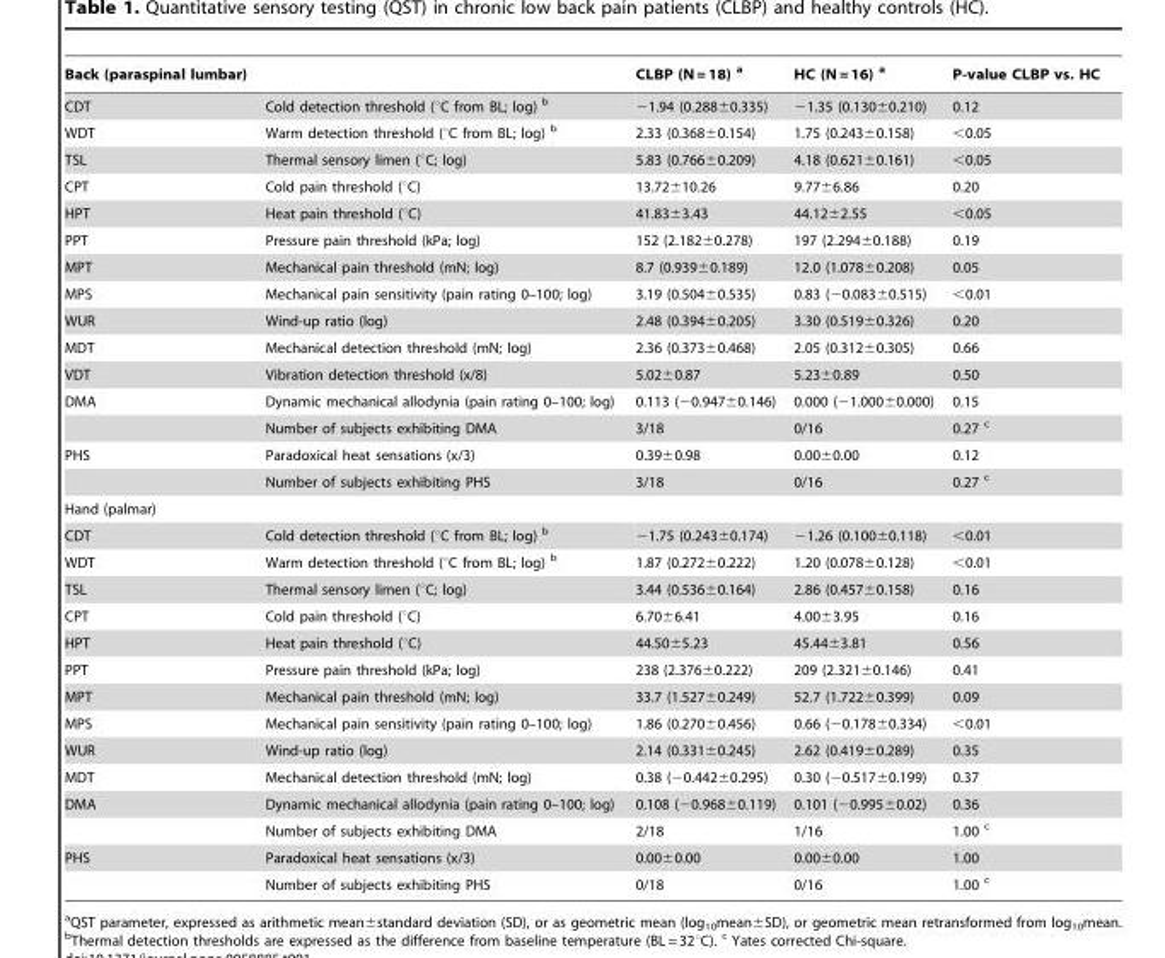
<table><thead><tr><td>Back (paraspinal lumbar)</td><td></td><td>CLBP (N = 18) a</td><td>HC (N = 16) a</td><td>P-value CLBP vs. HC</td></tr></thead><tbody><tr><td>CDT</td><td>Cold detection threshold (°C from BL; log) b</td><td>−1.94 (0.288±0.335)</td><td>−1.35 (0.130±0.210)</td><td>0.12</td></tr><tr><td>WDT</td><td>Warm detection threshold (°C from BL; log) b</td><td>2.33 (0.368±0.154)</td><td>1.75 (0.243±0.158)</td><td>&lt;0.05</td></tr><tr><td>TSL</td><td>Thermal sensory limen (°C; log)</td><td>5.83 (0.766±0.209)</td><td>4.18 (0.621±0.161)</td><td>&lt;0.05</td></tr><tr><td>CPT</td><td>Cold pain threshold (°C)</td><td>13.72±10.26</td><td>9.77±6.86</td><td>0.20</td></tr><tr><td>HPT</td><td>Heat pain threshold (°C)</td><td>41.83±3.43</td><td>44.12±2.55</td><td>&lt;0.05</td></tr><tr><td>PPT</td><td>Pressure pain threshold (kPa; log)</td><td>152 (2.182±0.278)</td><td>197 (2.294±0.188)</td><td>0.19</td></tr><tr><td>MPT</td><td>Mechanical pain threshold (mN; log)</td><td>8.7 (0.939±0.189)</td><td>12.0 (1.078±0.208)</td><td>0.05</td></tr><tr><td>MPS</td><td>Mechanical pain sensitivity (pain rating 0–100; log)</td><td>3.19 (0.504±0.535)</td><td>0.83 (−0.083±0.515)</td><td>&lt;0.01</td></tr><tr><td>WUR</td><td>Wind-up ratio (log)</td><td>2.48 (0.394±0.205)</td><td>3.30 (0.519±0.326)</td><td>0.20</td></tr><tr><td>MDT</td><td>Mechanical detection threshold (mN; log)</td><td>2.36 (0.373±0.468)</td><td>2.05 (0.312±0.305)</td><td>0.66</td></tr><tr><td>VDT</td><td>Vibration detection threshold (x/8)</td><td>5.02±0.87</td><td>5.23±0.89</td><td>0.50</td></tr><tr><td rowspan="2">DMA</td><td>Dynamic mechanical allodynia (pain rating 0–100; log)</td><td>0.113 (−0.947±0.146)</td><td>0.000 (−1.000±0.000)</td><td>0.15</td></tr><tr><td>Number of subjects exhibiting DMA</td><td>3/18</td><td>0/16</td><td>0.27 <sup>c</sup></td></tr><tr><td rowspan="2">PHS</td><td>Paradoxical heat sensations (x/3)</td><td>0.39±0.98</td><td>0.00±0.00</td><td>0.12</td></tr><tr><td>Number of subjects exhibiting PHS</td><td>3/18</td><td>0/16</td><td>0.27 <sup>c</sup></td></tr><tr><td colspan="5">Hand (palmar)</td></tr><tr><td>CDT</td><td>Cold detection threshold (°C from BL; log) b</td><td>−1.75 (0.243±0.174)</td><td>−1.26 (0.100±0.118)</td><td>&lt;0.01</td></tr><tr><td>WDT</td><td>Warm detection threshold (°C from BL; log) b</td><td>1.87 (0.272±0.222)</td><td>1.20 (0.078±0.128)</td><td>&lt;0.01</td></tr><tr><td>TSL</td><td>Thermal sensory limen (°C; log)</td><td>3.44 (0.536±0.164)</td><td>2.86 (0.457±0.158)</td><td>0.16</td></tr><tr><td>CPT</td><td>Cold pain threshold (°C)</td><td>6.70±6.41</td><td>4.00±3.95</td><td>0.16</td></tr><tr><td>HPT</td><td>Heat pain threshold (°C)</td><td>44.50±5.23</td><td>45.44±3.81</td><td>0.56</td></tr><tr><td>PPT</td><td>Pressure pain threshold (kPa; log)</td><td>238 (2.376±0.222)</td><td>209 (2.321±0.146)</td><td>0.41</td></tr><tr><td>MPT</td><td>Mechanical pain threshold (mN; log)</td><td>33.7 (1.527±0.249)</td><td>52.7 (1.722±0.399)</td><td>0.09</td></tr><tr><td>MPS</td><td>Mechanical pain sensitivity (pain rating 0–100; log)</td><td>1.86 (0.270±0.456)</td><td>0.66 (−0.178±0.334)</td><td>&lt;0.01</td></tr><tr><td>WUR</td><td>Wind-up ratio (log)</td><td>2.14 (0.331±0.245)</td><td>2.62 (0.419±0.289)</td><td>0.35</td></tr><tr><td>MDT</td><td>Mechanical detection threshold (mN; log)</td><td>0.38 (−0.442±0.295)</td><td>0.30 (−0.517±0.199)</td><td>0.37</td></tr><tr><td rowspan="2">DMA</td><td>Dynamic mechanical allodynia (pain rating 0–100; log)</td><td>0.108 (−0.968±0.119)</td><td>0.101 (−0.995±0.02)</td><td>0.36</td></tr><tr><td>Number of subjects exhibiting DMA</td><td>2/18</td><td>1/16</td><td>1.00 <sup>c</sup></td></tr><tr><td rowspan="2">PHS</td><td>Paradoxical heat sensations (x/3)</td><td>0.00±0.00</td><td>0.00±0.00</td><td>1.00</td></tr><tr><td>Number of subjects exhibiting PHS</td><td>0/18</td><td>0/16</td><td>1.00 <sup>c</sup></td></tr></tbody></table>